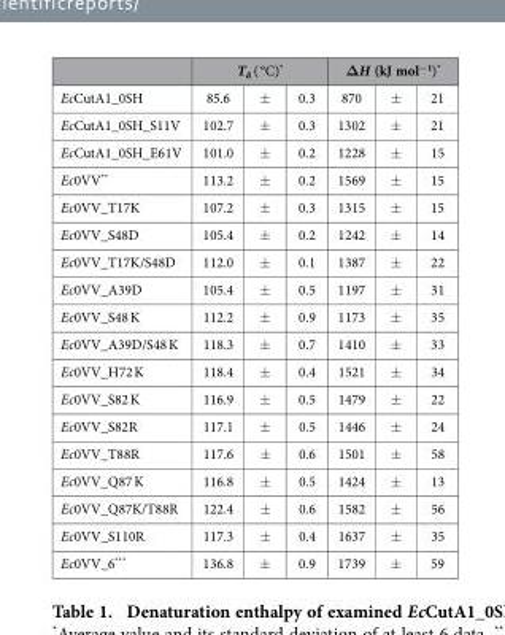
<table><thead><tr><td rowspan="2">EcCutA1_0SH</td><td colspan="3">T<sub>d</sub> ( °C)*</td><td colspan="3">ΔH (kJ mol<sup>−1</sup>)*</td></tr><tr><td>85.6</td><td>±</td><td>0.3</td><td>870</td><td>±</td><td>21</td></tr></thead><tbody><tr><td>EcCutA1_0SH_S11V</td><td>102.7</td><td>±</td><td>0.3</td><td>1302</td><td>±</td><td>21</td></tr><tr><td>EcCutA1_0SH_E61V</td><td>101.0</td><td>±</td><td>0.2</td><td>1228</td><td>±</td><td>15</td></tr><tr><td>Ec0VV**</td><td>113.2</td><td>±</td><td>0.2</td><td>1569</td><td>±</td><td>15</td></tr><tr><td>Ec0VV_T17K</td><td>107.2</td><td>±</td><td>0.3</td><td>1315</td><td>±</td><td>15</td></tr><tr><td>Ec0VV_S48D</td><td>105.4</td><td>±</td><td>0.2</td><td>1242</td><td>±</td><td>14</td></tr><tr><td>Ec0VV_T17K/S48D</td><td>112.0</td><td>±</td><td>0.1</td><td>1387</td><td>±</td><td>22</td></tr><tr><td>Ec0VV_A39D</td><td>105.4</td><td>±</td><td>0.5</td><td>1197</td><td>±</td><td>31</td></tr><tr><td>Ec0VV_S48 K</td><td>112.2</td><td>±</td><td>0.9</td><td>1173</td><td>±</td><td>35</td></tr><tr><td>Ec0VV_A39D/S48 K</td><td>118.3</td><td>±</td><td>0.7</td><td>1410</td><td>±</td><td>33</td></tr><tr><td>Ec0VV_H72 K</td><td>118.4</td><td>±</td><td>0.4</td><td>1521</td><td>±</td><td>34</td></tr><tr><td>Ec0VV_S82 K</td><td>116.9</td><td>±</td><td>0.5</td><td>1479</td><td>±</td><td>22</td></tr><tr><td>Ec0VV_S82R</td><td>117.1</td><td>±</td><td>0.5</td><td>1446</td><td>±</td><td>24</td></tr><tr><td>Ec0VV_T88R</td><td>117.6</td><td>±</td><td>0.6</td><td>1501</td><td>±</td><td>58</td></tr><tr><td>Ec0VV_Q87 K</td><td>116.8</td><td>±</td><td>0.5</td><td>1424</td><td>±</td><td>13</td></tr><tr><td>Ec0VV_Q87K/T88R</td><td>122.4</td><td>±</td><td>0.6</td><td>1582</td><td>±</td><td>56</td></tr><tr><td>Ec0VV_S110R</td><td>117.3</td><td>±</td><td>0.4</td><td>1637</td><td>±</td><td>35</td></tr><tr><td>Ec0VV_6***</td><td>136.8</td><td>±</td><td>0.9</td><td>1739</td><td>±</td><td>59</td></tr></tbody></table>